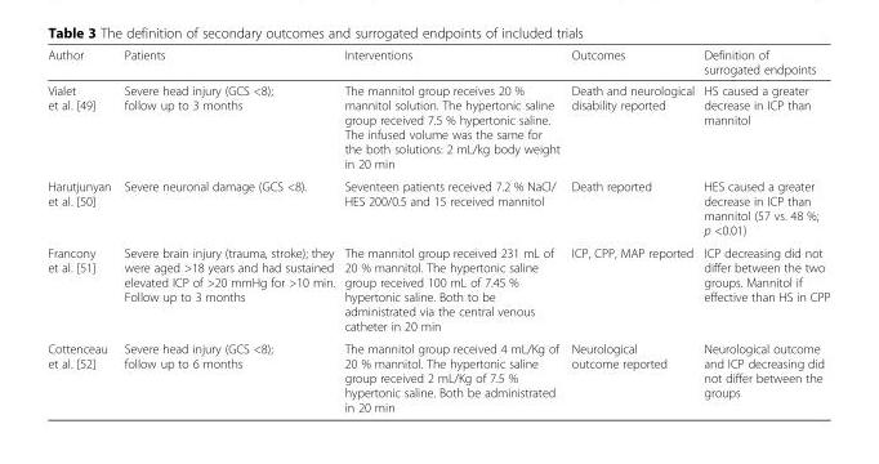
<table><thead><tr><td>Author</td><td>Patients</td><td>Interventions</td><td>Outcomes</td><td>Definition of surrogated endpoints</td></tr></thead><tbody><tr><td>Vialet et al. [49]</td><td>Severe head injury (GCS &lt;8); follow up to 3 months</td><td>The mannitol group receives 20 % mannitol solution. The hypertonic saline group received 7.5 % hypertonic saline. The infused volume was the same for the both solutions: 2 mL/kg body weight in 20 min</td><td>Death and neurological disability reported</td><td>HS caused a greater decrease in ICP than mannitol</td></tr><tr><td>Harutjunyan et al. [50]</td><td>Severe neuronal damage (GCS &lt;8).</td><td>Seventeen patients received 7.2 % NaCl/ HES 200/0.5 and 15 received mannitol</td><td>Death reported</td><td>HES caused a greater decrease in ICP than mannitol (57 vs. 48 %; p &lt;0.01)</td></tr><tr><td>Francony et al. [51]</td><td>Severe brain injury (trauma, stroke); they were aged &gt;18 years and had sustained elevated ICP of &gt;20 mmHg for &gt;10 min. Follow up to 3 months</td><td>The mannitol group received 231 mL of 20 % mannitol. The hypertonic saline group received 100 mL of 7.45 % hypertonic saline. Both to be administrated via the central venous catheter in 20 min</td><td>ICP, CPP, MAP reported</td><td>ICP decreasing did not differ between the two groups. Mannitol if effective than HS in CPP</td></tr><tr><td>Cottenceau et al. [52]</td><td>Severe head injury (GCS &lt;8); follow up to 6 months</td><td>The mannitol group received 4 mL/Kg of 20 % mannitol. The hypertonic saline group received 2 mL/Kg of 7.5 % hypertonic saline. Both be administrated in 20 min</td><td>Neurological outcome reported</td><td>Neurological outcome and ICP decreasing did not differ between the groups</td></tr></tbody></table>